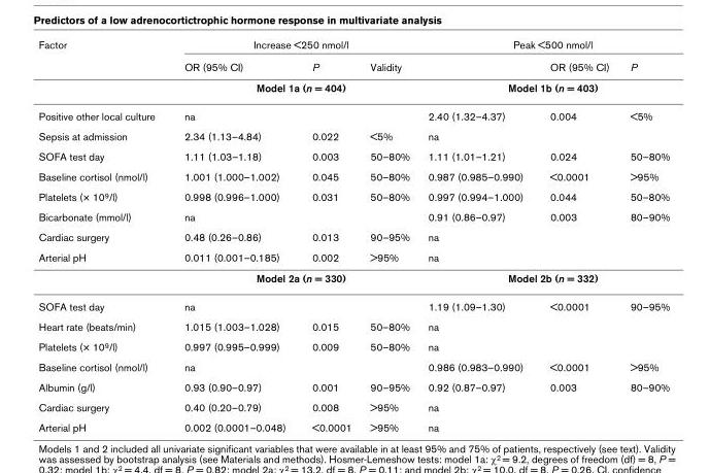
<table><thead><tr><td rowspan="2">Factor</td><td colspan="3">Increase &lt;250 nmol/l</td><td colspan="3">Peak &lt;500 nmol/l</td></tr><tr><td>OR (95% CI)</td><td>P</td><td>Validity</td><td></td><td>OR (95% CI)</td><td>P</td></tr></thead><tbody><tr><td></td><td colspan="3">Model 1a (n = 404)</td><td colspan="3">Model 1b (n = 403)</td></tr><tr><td>Positive other local culture</td><td>na</td><td></td><td></td><td>2.40 (1.32–4.37)</td><td>0.004</td><td>&lt;5%</td></tr><tr><td>Sepsis at admission</td><td>2.34 (1.13–4.84)</td><td>0.022</td><td>&lt;5%</td><td>na</td><td></td><td></td></tr><tr><td>SOFA test day</td><td>1.11 (1.03–1.18)</td><td>0.003</td><td>50–80%</td><td>1.11 (1.01–1.21)</td><td>0.024</td><td>50–80%</td></tr><tr><td>Baseline cortisol (nmol/l)</td><td>1.001 (1.000–1.002)</td><td>0.045</td><td>50–80%</td><td>0.987 (0.985–0.990)</td><td>&lt;0.0001</td><td>&gt;95%</td></tr><tr><td>Platelets (× 10<sup>9</sup>/l)</td><td>0.998 (0.996–1.000)</td><td>0.031</td><td>50–80%</td><td>0.997 (0.994–1.000)</td><td>0.044</td><td>50–80%</td></tr><tr><td>Bicarbonate (mmol/l)</td><td>na</td><td></td><td></td><td>0.91 (0.86–0.97)</td><td>0.003</td><td>80–90%</td></tr><tr><td>Cardiac surgery</td><td>0.48 (0.26–0.86)</td><td>0.013</td><td>90–95%</td><td>na</td><td></td><td></td></tr><tr><td rowspan="2">Arterial pH</td><td>0.011 (0.001–0.185)</td><td>0.002</td><td>&gt;95%</td><td>na</td><td></td><td></td></tr><tr><td colspan="3">Model 2a (n = 330)</td><td colspan="3">Model 2b (n = 332)</td></tr><tr><td>SOFA test day</td><td>na</td><td></td><td></td><td>1.19 (1.09–1.30)</td><td>&lt;0.0001</td><td>90–95%</td></tr><tr><td>Heart rate (beats/min)</td><td>1.015 (1.003–1.028)</td><td>0.015</td><td>50–80%</td><td>na</td><td></td><td></td></tr><tr><td>Platelets (× 10<sup>9</sup>/l)</td><td>0.997 (0.995–0.999)</td><td>0.009</td><td>50–80%</td><td>na</td><td></td><td></td></tr><tr><td>Baseline cortisol (nmol/l)</td><td>na</td><td></td><td></td><td>0.986 (0.983–0.990)</td><td>&lt;0.0001</td><td>&gt;95%</td></tr><tr><td>Albumin (g/l)</td><td>0.93 (0.90–0.97)</td><td>0.001</td><td>90–95%</td><td>0.92 (0.87–0.97)</td><td>0.003</td><td>80–90%</td></tr><tr><td>Cardiac surgery</td><td>0.40 (0.20–0.79)</td><td>0.008</td><td>&gt;95%</td><td>na</td><td></td><td></td></tr><tr><td>Arterial pH</td><td>0.002 (0.0001–0.048)</td><td>&lt;0.0001</td><td>&gt;95%</td><td>na</td><td></td><td></td></tr></tbody></table>